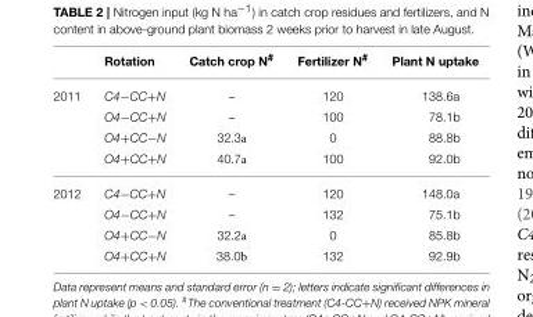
<table><thead><tr><td></td><td>Rotation</td><td>Catch crop N<sup>#</sup></td><td>Fertilizer N<sup>#</sup></td><td>Plant N uptake</td></tr></thead><tbody><tr><td rowspan="4">2011</td><td>C4−CC+N</td><td>–</td><td>120</td><td>138.6a</td></tr><tr><td>O4−CC+N</td><td>–</td><td>100</td><td>78.1b</td></tr><tr><td>O4+CC−N</td><td>32.3a</td><td>0</td><td>88.8b</td></tr><tr><td>O4+CC+N</td><td>40.7a</td><td>100</td><td>92.0b</td></tr><tr><td rowspan="4">2012</td><td>C4−CC+N</td><td>–</td><td>120</td><td>148.0a</td></tr><tr><td>O4−CC+N</td><td>–</td><td>132</td><td>75.1b</td></tr><tr><td>O4+CC−N</td><td>32.2a</td><td>0</td><td>85.8b</td></tr><tr><td>O4+CC+N</td><td>38.0b</td><td>132</td><td>92.9b</td></tr></tbody></table>